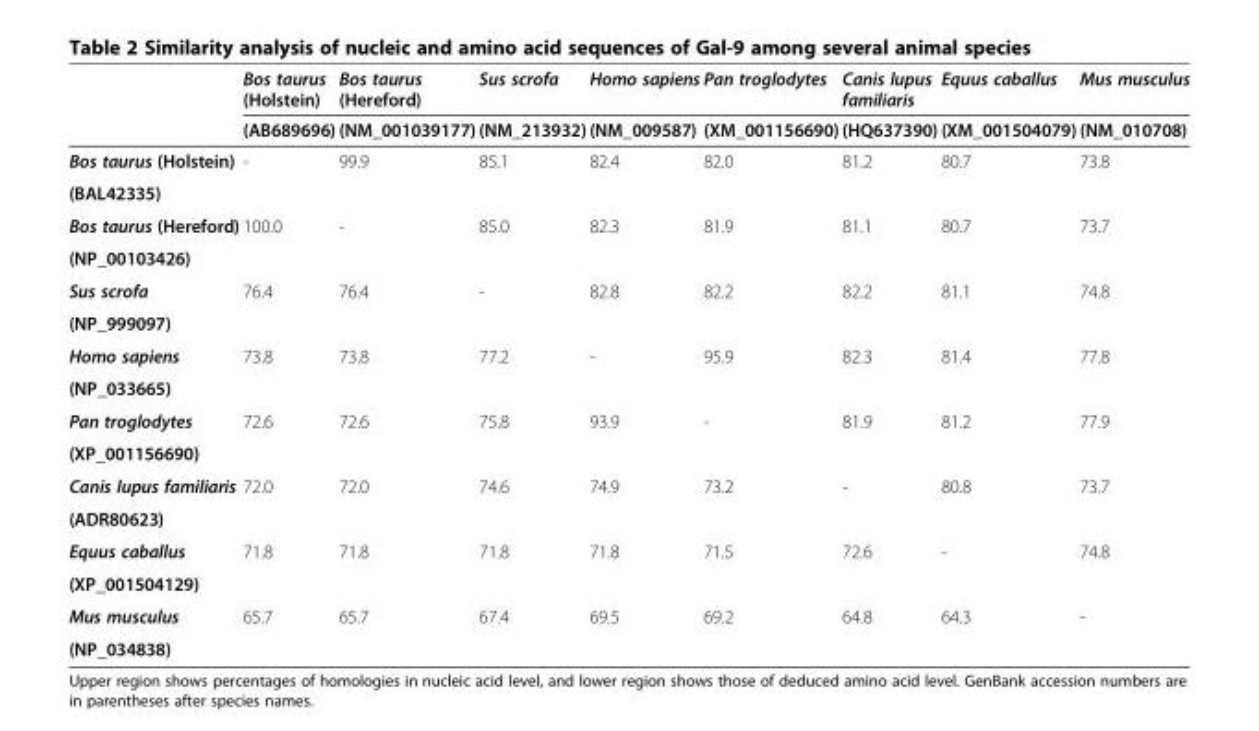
<table><thead><tr><td rowspan="2"></td><td rowspan="2">Bos taurus (Holstein) (AB689696)</td><td rowspan="2">Bos taurus (Hereford) (NM_001039177)</td><td rowspan="2">Sus scrofa (NM_213932)</td><td rowspan="2">Homo sapiens (NM_009587)</td><td rowspan="2">Pan troglodytes (XM_001156690)</td><td rowspan="2">Canis lupus familiaris (HQ637390)</td><td rowspan="2">Equus caballus (XM_001504079)</td><td rowspan="2">Mus musculus (NM_010708)</td></tr><tr></tr></thead><tbody><tr><td>Bos taurus (Holstein)</td><td>-</td><td>99.9</td><td>85.1</td><td>82.4</td><td>82.0</td><td>81.2</td><td>80.7</td><td>73.8</td></tr><tr><td colspan="9">(BAL42335)</td></tr><tr><td>Bos taurus (Hereford)</td><td>100.0</td><td>-</td><td>85.0</td><td>82.3</td><td>81.9</td><td>81.1</td><td>80.7</td><td>73.7</td></tr><tr><td colspan="9">(NP_00103426)</td></tr><tr><td>Sus scrofa</td><td>76.4</td><td>76.4</td><td>-</td><td>82.8</td><td>82.2</td><td>82.2</td><td>81.1</td><td>74.8</td></tr><tr><td colspan="9">(NP_999097)</td></tr><tr><td>Homo sapiens</td><td>73.8</td><td>73.8</td><td>77.2</td><td>-</td><td>95.9</td><td>82.3</td><td>81.4</td><td>77.8</td></tr><tr><td colspan="9">(NP_033665)</td></tr><tr><td>Pan troglodytes</td><td>72.6</td><td>72.6</td><td>75.8</td><td>93.9</td><td>-</td><td>81.9</td><td>81.2</td><td>77.9</td></tr><tr><td colspan="9">(XP_001156690)</td></tr><tr><td>Canis lupus familiaris</td><td>72.0</td><td>72.0</td><td>74.6</td><td>74.9</td><td>73.2</td><td>-</td><td>80.8</td><td>73.7</td></tr><tr><td colspan="9">(ADR80623)</td></tr><tr><td>Equus caballus</td><td>71.8</td><td>71.8</td><td>71.8</td><td>71.8</td><td>71.5</td><td>72.6</td><td>-</td><td>74.8</td></tr><tr><td colspan="9">(XP_001504129)</td></tr><tr><td>Mus musculus</td><td>65.7</td><td>65.7</td><td>67.4</td><td>69.5</td><td>69.2</td><td>64.8</td><td>64.3</td><td>-</td></tr><tr><td>(NP_034838)</td><td></td><td></td><td></td><td></td><td></td><td></td><td></td><td></td></tr></tbody></table>